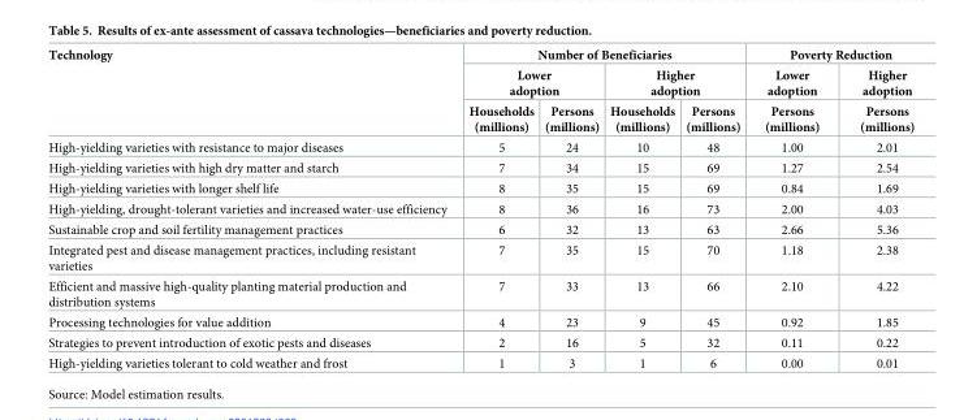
<table><thead><tr><td rowspan="3">Technology</td><td colspan="4">Number of Beneficiaries</td><td colspan="2">Poverty Reduction</td></tr><tr><td colspan="2">Lower adoption</td><td colspan="2">Higher adoption</td><td rowspan="2">Lower adoption Persons (millions)</td><td rowspan="2">Higher adoption Persons (millions)</td></tr><tr><td>Households (millions)</td><td>Persons (millions)</td><td>Households (millions)</td><td>Persons (millions)</td></tr></thead><tbody><tr><td>High-yielding varieties with resistance to major diseases</td><td>5</td><td>24</td><td>10</td><td>48</td><td>1.00</td><td>2.01</td></tr><tr><td>High-yielding varieties with high dry matter and starch</td><td>7</td><td>34</td><td>15</td><td>69</td><td>1.27</td><td>2.54</td></tr><tr><td>High-yielding varieties with longer shelf life</td><td>8</td><td>35</td><td>15</td><td>69</td><td>0.84</td><td>1.69</td></tr><tr><td>High-yielding, drought-tolerant varieties and increased water-use efficiency</td><td>8</td><td>36</td><td>16</td><td>73</td><td>2.00</td><td>4.03</td></tr><tr><td>Sustainable crop and soil fertility management practices</td><td>6</td><td>32</td><td>13</td><td>63</td><td>2.66</td><td>5.36</td></tr><tr><td>Integrated pest and disease management practices, including resistant varieties</td><td>7</td><td>35</td><td>15</td><td>70</td><td>1.18</td><td>2.38</td></tr><tr><td>Efficient and massive high-quality planting material production and distribution systems</td><td>7</td><td>33</td><td>13</td><td>66</td><td>2.10</td><td>4.22</td></tr><tr><td>Processing technologies for value addition</td><td>4</td><td>23</td><td>9</td><td>45</td><td>0.92</td><td>1.85</td></tr><tr><td>Strategies to prevent introduction of exotic pests and diseases</td><td>2</td><td>16</td><td>5</td><td>32</td><td>0.11</td><td>0.22</td></tr><tr><td>High-yielding varieties tolerant to cold weather and frost</td><td>1</td><td>3</td><td>1</td><td>6</td><td>0.00</td><td>0.01</td></tr></tbody></table>